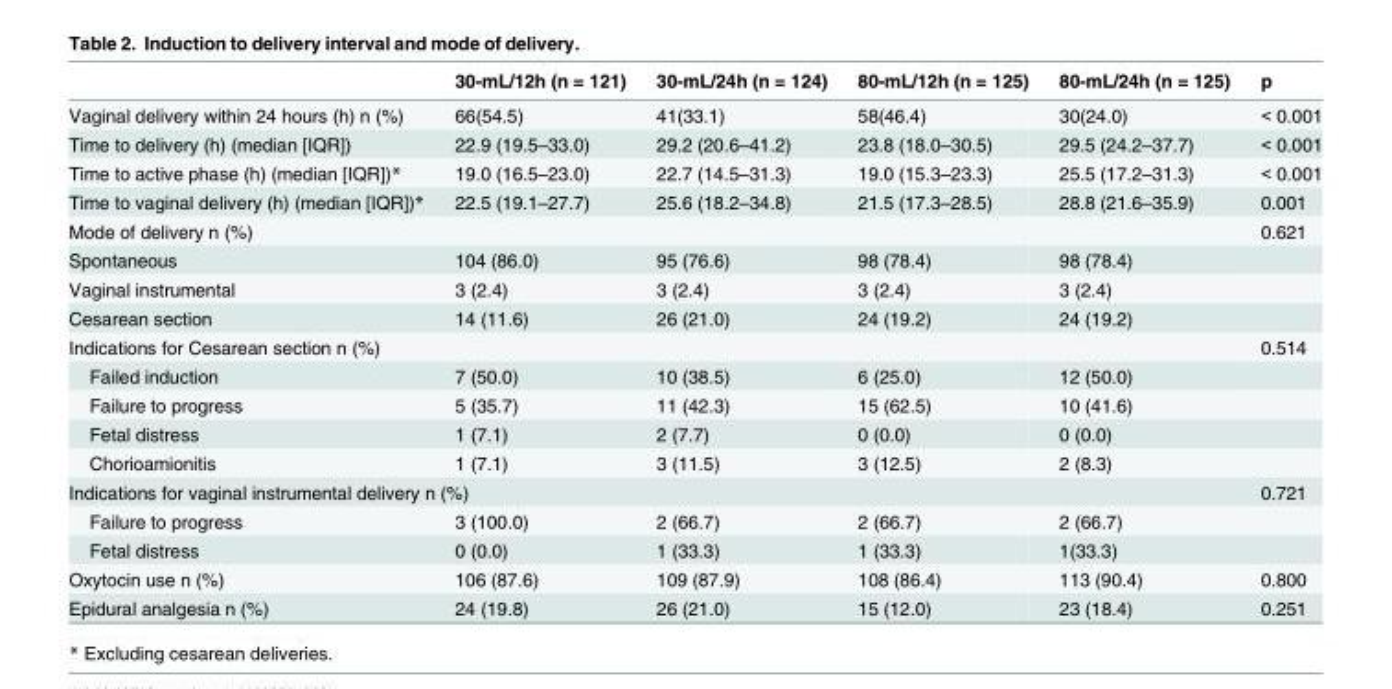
<table><thead><tr><td></td><td>30-mL/12h (n = 121)</td><td>30-mL/24h (n = 124)</td><td>80-mL/12h (n = 125)</td><td>80-mL/24h (n = 125)</td><td>p</td></tr></thead><tbody><tr><td>Vaginal delivery within 24 hours (h) n (%)</td><td>66(54.5)</td><td>41(33.1)</td><td>58(46.4)</td><td>30(24.0)</td><td>&lt; 0.001</td></tr><tr><td>Time to delivery (h) (median [IQR])</td><td>22.9 (19.5–33.0)</td><td>29.2 (20.6–41.2)</td><td>23.8 (18.0–30.5)</td><td>29.5 (24.2–37.7)</td><td>&lt; 0.001</td></tr><tr><td>Time to active phase (h) (median [IQR])*</td><td>19.0 (16.5–23.0)</td><td>22.7 (14.5–31.3)</td><td>19.0 (15.3–23.3)</td><td>25.5 (17.2–31.3)</td><td>&lt; 0.001</td></tr><tr><td>Time to vaginal delivery (h) (median [IQR])*</td><td>22.5 (19.1–27.7)</td><td>25.6 (18.2–34.8)</td><td>21.5 (17.3–28.5)</td><td>28.8 (21.6–35.9)</td><td>0.001</td></tr><tr><td colspan="2">Mode of delivery n (%)</td><td></td><td></td><td></td><td>0.621</td></tr><tr><td>Spontaneous</td><td>104 (86.0)</td><td>95 (76.6)</td><td>98 (78.4)</td><td>98 (78.4)</td><td></td></tr><tr><td>Vaginal instrumental</td><td>3 (2.4)</td><td>3 (2.4)</td><td>3 (2.4)</td><td>3 (2.4)</td><td></td></tr><tr><td>Cesarean section</td><td>14 (11.6)</td><td>26 (21.0)</td><td>24 (19.2)</td><td>24 (19.2)</td><td></td></tr><tr><td colspan="2">Indications for Cesarean section n (%)</td><td></td><td></td><td></td><td>0.514</td></tr><tr><td>Failed induction</td><td>7 (50.0)</td><td>10 (38.5)</td><td>6 (25.0)</td><td>12 (50.0)</td><td></td></tr><tr><td>Failure to progress</td><td>5 (35.7)</td><td>11 (42.3)</td><td>15 (62.5)</td><td>10 (41.6)</td><td></td></tr><tr><td>Fetal distress</td><td>1 (7.1)</td><td>2 (7.7)</td><td>0 (0.0)</td><td>0 (0.0)</td><td></td></tr><tr><td>Chorioamionitis</td><td>1 (7.1)</td><td>3 (11.5)</td><td>3 (12.5)</td><td>2 (8.3)</td><td></td></tr><tr><td colspan="4">Indications for vaginal instrumental delivery n (%)</td><td></td><td>0.721</td></tr><tr><td>Failure to progress</td><td>3 (100.0)</td><td>2 (66.7)</td><td>2 (66.7)</td><td>2 (66.7)</td><td></td></tr><tr><td>Fetal distress</td><td>0 (0.0)</td><td>1 (33.3)</td><td>1 (33.3)</td><td>1(33.3)</td><td></td></tr><tr><td>Oxytocin use n (%)</td><td>106 (87.6)</td><td>109 (87.9)</td><td>108 (86.4)</td><td>113 (90.4)</td><td>0.800</td></tr><tr><td>Epidural analgesia n (%)</td><td>24 (19.8)</td><td>26 (21.0)</td><td>15 (12.0)</td><td>23 (18.4)</td><td>0.251</td></tr></tbody></table>